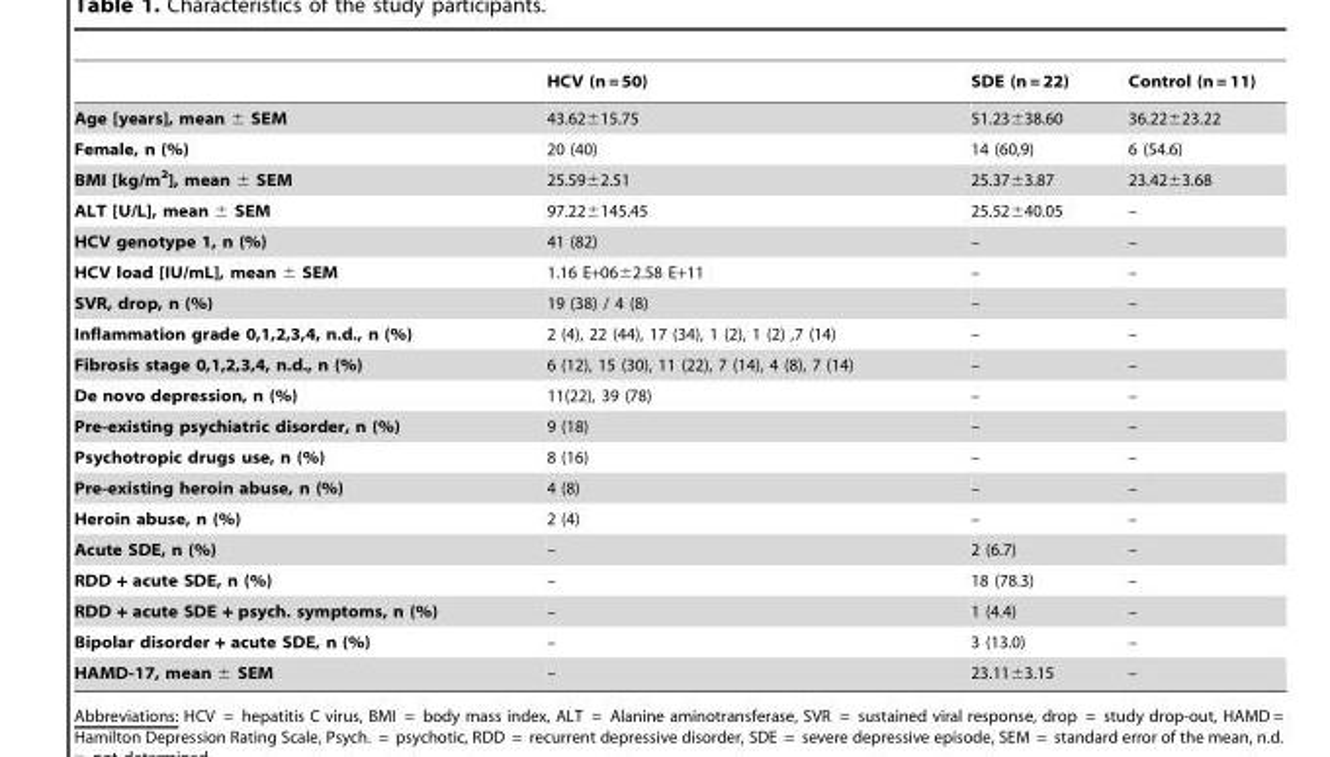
<table><thead><tr><td></td><td>HCV (n = 50)</td><td>SDE (n = 22)</td><td>Control (n = 11)</td></tr></thead><tbody><tr><td>Age [years], mean ± SEM</td><td>43.62±15.75</td><td>51.23±38.60</td><td>36.22±23.22</td></tr><tr><td>Female, n (%)</td><td>20 (40)</td><td>14 (60,9)</td><td>6 (54.6)</td></tr><tr><td>BMI [kg/m<sup>2</sup>], mean ± SEM</td><td>25.59±2.51</td><td>25.37±3.87</td><td>23.42±3.68</td></tr><tr><td>ALT [U/L], mean ± SEM</td><td>97.22±145.45</td><td>25.52±40.05</td><td>–</td></tr><tr><td>HCV genotype 1, n (%)</td><td>41 (82)</td><td>–</td><td>–</td></tr><tr><td>HCV load [IU/mL], mean ± SEM</td><td>1.16 E+06±2.58 E+11</td><td>–</td><td>–</td></tr><tr><td>SVR, drop, n (%)</td><td>19 (38) / 4 (8)</td><td>–</td><td>–</td></tr><tr><td>Inflammation grade 0,1,2,3,4, n.d., n (%)</td><td>2 (4), 22 (44), 17 (34), 1 (2), 1 (2) ,7 (14)</td><td>–</td><td>–</td></tr><tr><td>Fibrosis stage 0,1,2,3,4, n.d., n (%)</td><td>6 (12), 15 (30), 11 (22), 7 (14), 4 (8), 7 (14)</td><td>–</td><td>–</td></tr><tr><td>De novo depression, n (%)</td><td>11(22), 39 (78)</td><td>–</td><td>–</td></tr><tr><td>Pre-existing psychiatric disorder, n (%)</td><td>9 (18)</td><td>–</td><td>–</td></tr><tr><td>Psychotropic drugs use, n (%)</td><td>8 (16)</td><td>–</td><td>–</td></tr><tr><td>Pre-existing heroin abuse, n (%)</td><td>4 (8)</td><td>–</td><td>–</td></tr><tr><td>Heroin abuse, n (%)</td><td>2 (4)</td><td>–</td><td>–</td></tr><tr><td>Acute SDE, n (%)</td><td>–</td><td>2 (6.7)</td><td>–</td></tr><tr><td>RDD + acute SDE, n (%)</td><td>–</td><td>18 (78.3)</td><td>–</td></tr><tr><td>RDD + acute SDE + psych. symptoms, n (%)</td><td>–</td><td>1 (4.4)</td><td>–</td></tr><tr><td>Bipolar disorder + acute SDE, n (%)</td><td>–</td><td>3 (13.0)</td><td>–</td></tr><tr><td>HAMD-17, mean ± SEM</td><td>–</td><td>23.11±3.15</td><td>–</td></tr></tbody></table>